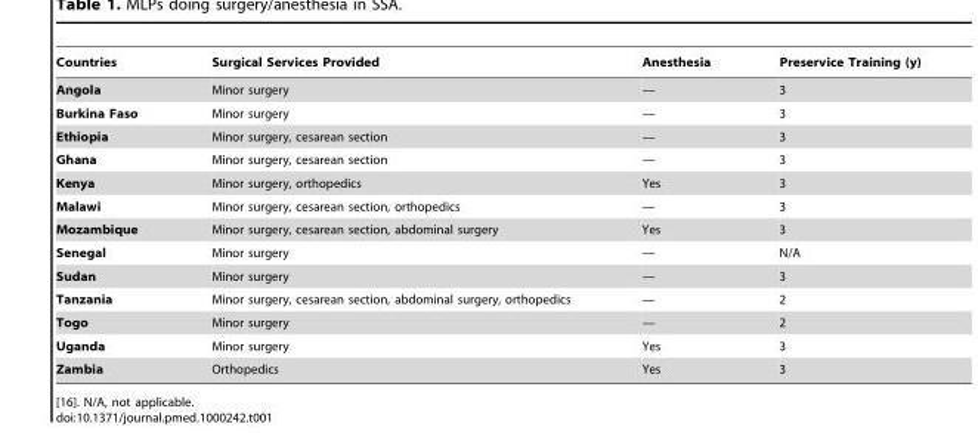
<table><thead><tr><td>Countries</td><td>Surgical Services Provided</td><td>Anesthesia</td><td>Preservice Training (y)</td></tr></thead><tbody><tr><td>Angola</td><td>Minor surgery</td><td>—</td><td>3</td></tr><tr><td>Burkina Faso</td><td>Minor surgery</td><td>—</td><td>3</td></tr><tr><td>Ethiopia</td><td>Minor surgery, cesarean section</td><td>—</td><td>3</td></tr><tr><td>Ghana</td><td>Minor surgery, cesarean section</td><td>—</td><td>3</td></tr><tr><td>Kenya</td><td>Minor surgery, orthopedics</td><td>Yes</td><td>3</td></tr><tr><td>Malawi</td><td>Minor surgery, cesarean section, orthopedics</td><td>—</td><td>3</td></tr><tr><td>Mozambique</td><td>Minor surgery, cesarean section, abdominal surgery</td><td>Yes</td><td>3</td></tr><tr><td>Senegal</td><td>Minor surgery</td><td>—</td><td>N/A</td></tr><tr><td>Sudan</td><td>Minor surgery</td><td>—</td><td>3</td></tr><tr><td>Tanzania</td><td>Minor surgery, cesarean section, abdominal surgery, orthopedics</td><td>—</td><td>2</td></tr><tr><td>Togo</td><td>Minor surgery</td><td>—</td><td>2</td></tr><tr><td>Uganda</td><td>Minor surgery</td><td>Yes</td><td>3</td></tr><tr><td>Zambia</td><td>Orthopedics</td><td>Yes</td><td>3</td></tr></tbody></table>